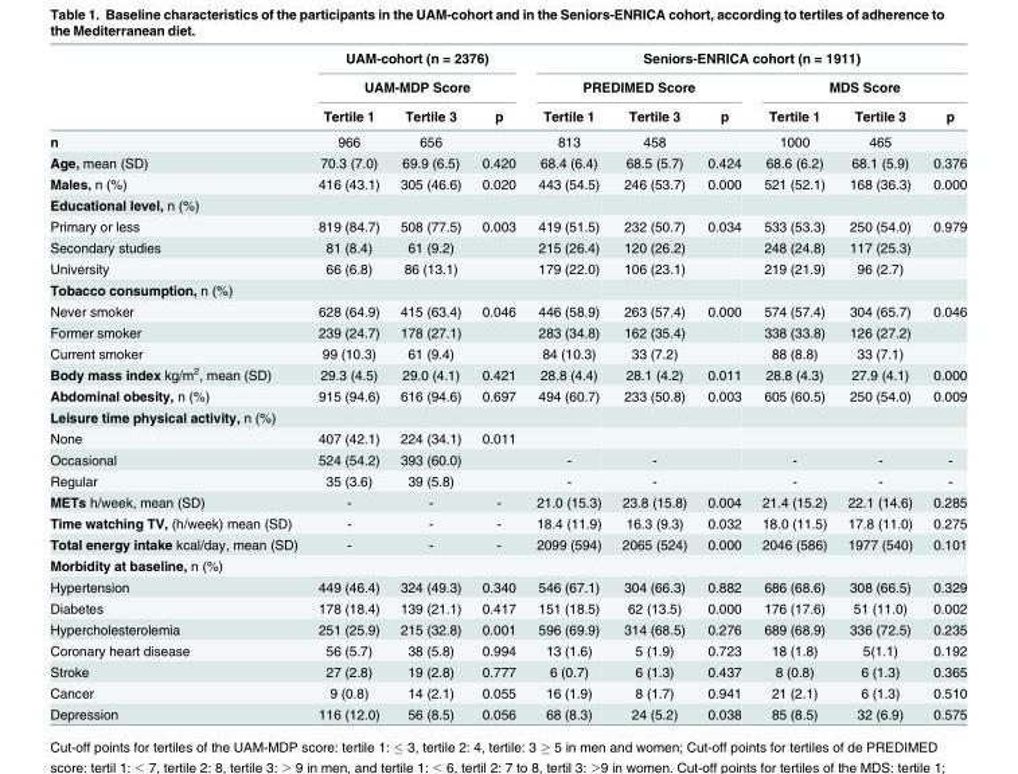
<table><thead><tr><td rowspan="3"></td><td rowspan="2" colspan="3">UAM-cohort (n = 2376) UAM-MDP Score</td><td colspan="6">Seniors-ENRICA cohort (n = 1911)</td></tr><tr><td colspan="3">PREDIMED Score</td><td colspan="3">MDS Score</td></tr><tr><td>Tertile 1</td><td>Tertile 3</td><td>p</td><td>Tertile 1</td><td>Tertile 3</td><td>p</td><td>Tertile 1</td><td>Tertile 3</td><td>p</td></tr></thead><tbody><tr><td>n</td><td>966</td><td>656</td><td></td><td>813</td><td>458</td><td></td><td>1000</td><td>465</td><td></td></tr><tr><td>Age, mean (SD)</td><td>70.3 (7.0)</td><td>69.9 (6.5)</td><td>0.420</td><td>68.4 (6.4)</td><td>68.5 (5.7)</td><td>0.424</td><td>68.6 (6.2)</td><td>68.1 (5.9)</td><td>0.376</td></tr><tr><td>Males, n (%)</td><td>416 (43.1)</td><td>305 (46.6)</td><td>0.020</td><td>443 (54.5)</td><td>246 (53.7)</td><td>0.000</td><td>521 (52.1)</td><td>168 (36.3)</td><td>0.000</td></tr><tr><td colspan="10">Educational level, n (%)</td></tr><tr><td>Primary or less</td><td>819 (84.7)</td><td>508 (77.5)</td><td>0.003</td><td>419 (51.5)</td><td>232 (50.7)</td><td>0.034</td><td>533 (53.3)</td><td>250 (54.0)</td><td>0.979</td></tr><tr><td>Secondary studies</td><td>81 (8.4)</td><td>61 (9.2)</td><td></td><td>215 (26.4)</td><td>120 (26.2)</td><td></td><td>248 (24.8)</td><td>117 (25.3)</td><td></td></tr><tr><td>University</td><td>66 (6.8)</td><td>86 (13.1)</td><td></td><td>179 (22.0)</td><td>106 (23.1)</td><td></td><td>219 (21.9)</td><td>96 (2.7)</td><td></td></tr><tr><td colspan="10">Tobacco consumption, n (%)</td></tr><tr><td>Never smoker</td><td>628 (64.9)</td><td>415 (63.4)</td><td>0.046</td><td>446 (58.9)</td><td>263 (57.4)</td><td>0.000</td><td>574 (57.4)</td><td>304 (65.7)</td><td>0.046</td></tr><tr><td>Former smoker</td><td>239 (24.7)</td><td>178 (27.1)</td><td></td><td>283 (34.8)</td><td>162 (35.4)</td><td></td><td>338 (33.8)</td><td>126 (27.2)</td><td></td></tr><tr><td>Current smoker</td><td>99 (10.3)</td><td>61 (9.4)</td><td></td><td>84 (10.3)</td><td>33 (7.2)</td><td></td><td>88 (8.8)</td><td>33 (7.1)</td><td></td></tr><tr><td>Body mass index kg/m<sup>2</sup>, mean (SD)</td><td>29.3 (4.5)</td><td>29.0 (4.1)</td><td>0.421</td><td>28.8 (4.4)</td><td>28.1 (4.2)</td><td>0.011</td><td>28.8 (4.3)</td><td>27.9 (4.1)</td><td>0.000</td></tr><tr><td>Abdominal obesity, n (%)</td><td>915 (94.6)</td><td>616 (94.6)</td><td>0.697</td><td>494 (60.7)</td><td>233 (50.8)</td><td>0.003</td><td>605 (60.5)</td><td>250 (54.0)</td><td>0.009</td></tr><tr><td colspan="10">Leisure time physical activity, n (%)</td></tr><tr><td>None</td><td>407 (42.1)</td><td>224 (34.1)</td><td>0.011</td><td></td><td></td><td></td><td></td><td></td><td></td></tr><tr><td>Occasional</td><td>524 (54.2)</td><td>393 (60.0)</td><td></td><td>-</td><td>-</td><td></td><td>-</td><td>-</td><td>-</td></tr><tr><td>Regular</td><td>35 (3.6)</td><td>39 (5.8)</td><td></td><td>-</td><td>-</td><td></td><td>-</td><td>-</td><td>-</td></tr><tr><td>METs h/week, mean (SD)</td><td>-</td><td>-</td><td>-</td><td>21.0 (15.3)</td><td>23.8 (15.8)</td><td>0.004</td><td>21.4 (15.2)</td><td>22.1 (14.6)</td><td>0.285</td></tr><tr><td>Time watching TV, (h/week) mean (SD)</td><td>-</td><td>-</td><td>-</td><td>18.4 (11.9)</td><td>16.3 (9.3)</td><td>0.032</td><td>18.0 (11.5)</td><td>17.8 (11.0)</td><td>0.275</td></tr><tr><td>Total energy intake kcal/day, mean (SD)</td><td>-</td><td>-</td><td>-</td><td>2099 (594)</td><td>2065 (524)</td><td>0.000</td><td>2046 (586)</td><td>1977 (540)</td><td>0.101</td></tr><tr><td colspan="10">Morbidity at baseline, n (%)</td></tr><tr><td>Hypertension</td><td>449 (46.4)</td><td>324 (49.3)</td><td>0.340</td><td>546 (67.1)</td><td>304 (66.3)</td><td>0.882</td><td>686 (68.6)</td><td>308 (66.5)</td><td>0.329</td></tr><tr><td>Diabetes</td><td>178 (18.4)</td><td>139 (21.1)</td><td>0.417</td><td>151 (18.5)</td><td>62 (13.5)</td><td>0.000</td><td>176 (17.6)</td><td>51 (11.0)</td><td>0.002</td></tr><tr><td>Hypercholesterolemia</td><td>251 (25.9)</td><td>215 (32.8)</td><td>0.001</td><td>596 (69.9)</td><td>314 (68.5)</td><td>0.276</td><td>689 (68.9)</td><td>336 (72.5)</td><td>0.235</td></tr><tr><td>Coronary heart disease</td><td>56 (5.7)</td><td>38 (5.8)</td><td>0.994</td><td>13 (1.6)</td><td>5 (1.9)</td><td>0.723</td><td>18 (1.8)</td><td>5(1.1)</td><td>0.192</td></tr><tr><td>Stroke</td><td>27 (2.8)</td><td>19 (2.8)</td><td>0.777</td><td>6 (0.7)</td><td>6 (1.3)</td><td>0.437</td><td>8 (0.8)</td><td>6 (1.3)</td><td>0.365</td></tr><tr><td>Cancer</td><td>9 (0.8)</td><td>14 (2.1)</td><td>0.055</td><td>16 (1.9)</td><td>8 (1.7)</td><td>0.941</td><td>21 (2.1)</td><td>6 (1.3)</td><td>0.510</td></tr><tr><td>Depression</td><td>116 (12.0)</td><td>56 (8.5)</td><td>0.056</td><td>68 (8.3)</td><td>24 (5.2)</td><td>0.038</td><td>85 (8.5)</td><td>32 (6.9)</td><td>0.575</td></tr></tbody></table>